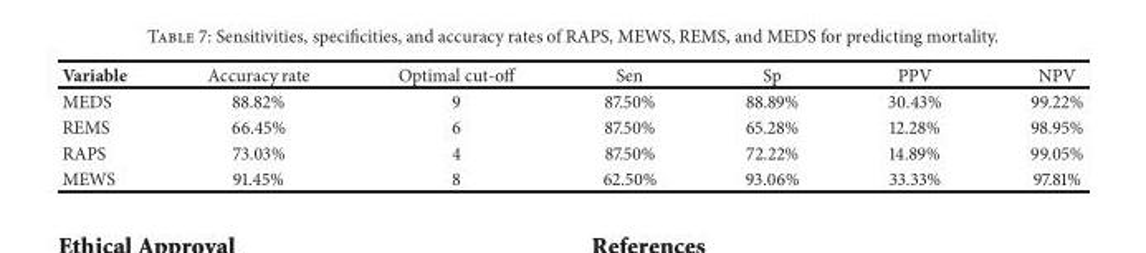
<table><thead><tr><td>Variable</td><td>Accuracy rate</td><td>Optimal cut-off</td><td>Sen</td><td>Sp</td><td>PPV</td><td>NPV</td></tr></thead><tbody><tr><td>MEDS</td><td>88.82%</td><td>9</td><td>87.50%</td><td>88.89%</td><td>30.43%</td><td>99.22%</td></tr><tr><td>REMS</td><td>66.45%</td><td>6</td><td>87.50%</td><td>65.28%</td><td>12.28%</td><td>98.95%</td></tr><tr><td>RAPS</td><td>73.03%</td><td>4</td><td>87.50%</td><td>72.22%</td><td>14.89%</td><td>99.05%</td></tr><tr><td>MEWS</td><td>91.45%</td><td>8</td><td>62.50%</td><td>93.06%</td><td>33.33%</td><td>97.81%</td></tr></tbody></table>